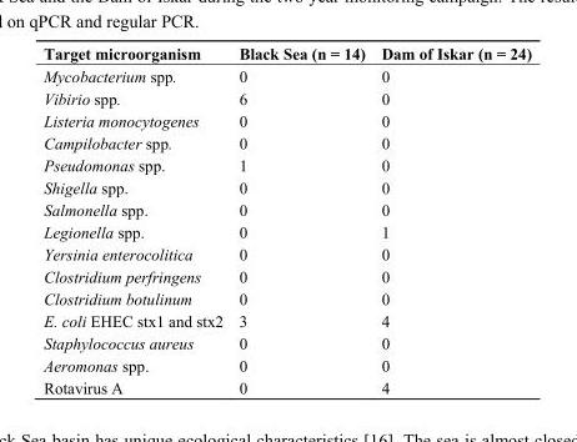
<table><thead><tr><td>Target microorganism</td><td>Black Sea (n = 14)</td><td>Dam of Iskar (n = 24)</td></tr></thead><tbody><tr><td>Mycobacterium spp.</td><td>0</td><td>0</td></tr><tr><td>Vibirio spp.</td><td>6</td><td>0</td></tr><tr><td>Listeria monocytogenes</td><td>0</td><td>0</td></tr><tr><td>Campilobacter spp.</td><td>0</td><td>0</td></tr><tr><td>Pseudomonas spp.</td><td>1</td><td>0</td></tr><tr><td>Shigella spp.</td><td>0</td><td>0</td></tr><tr><td>Salmonella spp.</td><td>0</td><td>0</td></tr><tr><td>Legionella spp.</td><td>0</td><td>1</td></tr><tr><td>Yersinia enterocolitica</td><td>0</td><td>0</td></tr><tr><td>Clostridium perfringens</td><td>0</td><td>0</td></tr><tr><td>Clostridium botulinum</td><td>0</td><td>0</td></tr><tr><td>E. coli EHEC stx1 and stx2</td><td>3</td><td>4</td></tr><tr><td>Staphylococcus aureus</td><td>0</td><td>0</td></tr><tr><td>Aeromonas spp.</td><td>0</td><td>0</td></tr><tr><td>Rotavirus A</td><td>0</td><td>4</td></tr></tbody></table>